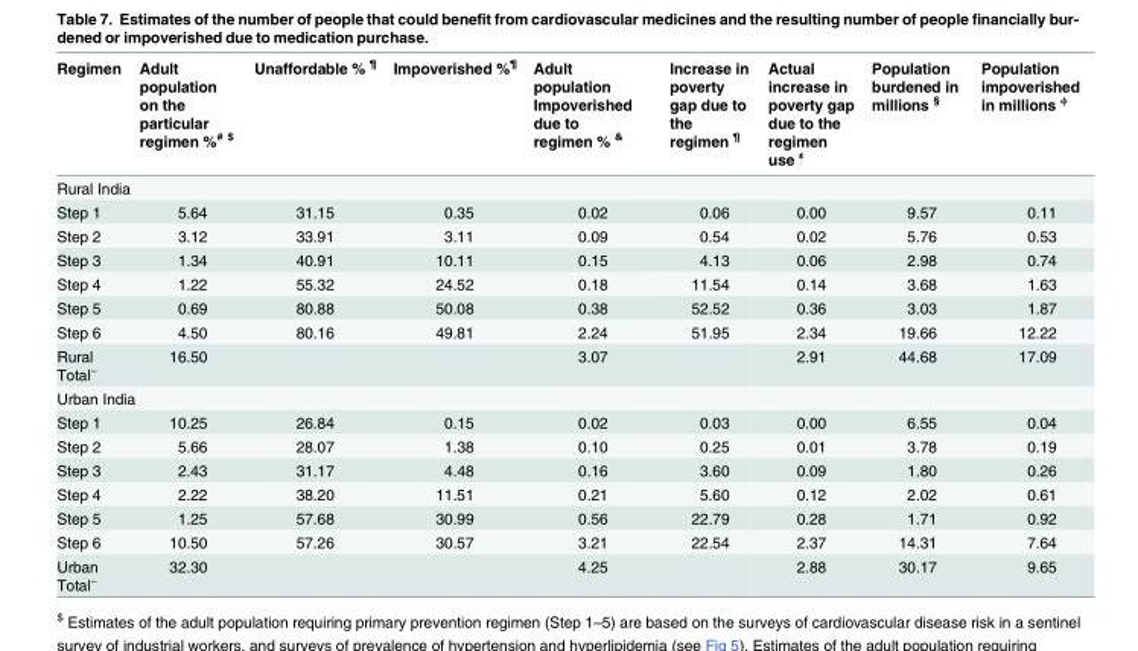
<table><thead><tr><td>Regimen</td><td>Adult population on the particular regimen %<sup># $</sup></td><td>Unaffordable % <sup>¶</sup></td><td>Impoverished %<sup>¶</sup></td><td>Adult population Impoverished due to regimen % <sup>&amp;</sup></td><td>Increase in poverty gap due to the regimen <sup>¶</sup></td><td>Actual increase in poverty gap due to the regimen use <sup>ε</sup></td><td>Population burdened in millions <sup>§</sup></td><td>Population impoverished in millions <sup>ϕ</sup></td></tr></thead><tbody><tr><td colspan="9">Rural India</td></tr><tr><td>Step 1</td><td>5.64</td><td>31.15</td><td>0.35</td><td>0.02</td><td>0.06</td><td>0.00</td><td>9.57</td><td>0.11</td></tr><tr><td>Step 2</td><td>3.12</td><td>33.91</td><td>3.11</td><td>0.09</td><td>0.54</td><td>0.02</td><td>5.76</td><td>0.53</td></tr><tr><td>Step 3</td><td>1.34</td><td>40.91</td><td>10.11</td><td>0.15</td><td>4.13</td><td>0.06</td><td>2.98</td><td>0.74</td></tr><tr><td>Step 4</td><td>1.22</td><td>55.32</td><td>24.52</td><td>0.18</td><td>11.54</td><td>0.14</td><td>3.68</td><td>1.63</td></tr><tr><td>Step 5</td><td>0.69</td><td>80.88</td><td>50.08</td><td>0.38</td><td>52.52</td><td>0.36</td><td>3.03</td><td>1.87</td></tr><tr><td>Step 6</td><td>4.50</td><td>80.16</td><td>49.81</td><td>2.24</td><td>51.95</td><td>2.34</td><td>19.66</td><td>12.22</td></tr><tr><td>Rural Total<sup>~</sup></td><td>16.50</td><td></td><td></td><td>3.07</td><td></td><td>2.91</td><td>44.68</td><td>17.09</td></tr><tr><td colspan="9">Urban India</td></tr><tr><td>Step 1</td><td>10.25</td><td>26.84</td><td>0.15</td><td>0.02</td><td>0.03</td><td>0.00</td><td>6.55</td><td>0.04</td></tr><tr><td>Step 2</td><td>5.66</td><td>28.07</td><td>1.38</td><td>0.10</td><td>0.25</td><td>0.01</td><td>3.78</td><td>0.19</td></tr><tr><td>Step 3</td><td>2.43</td><td>31.17</td><td>4.48</td><td>0.16</td><td>3.60</td><td>0.09</td><td>1.80</td><td>0.26</td></tr><tr><td>Step 4</td><td>2.22</td><td>38.20</td><td>11.51</td><td>0.21</td><td>5.60</td><td>0.12</td><td>2.02</td><td>0.61</td></tr><tr><td>Step 5</td><td>1.25</td><td>57.68</td><td>30.99</td><td>0.56</td><td>22.79</td><td>0.28</td><td>1.71</td><td>0.92</td></tr><tr><td>Step 6</td><td>10.50</td><td>57.26</td><td>30.57</td><td>3.21</td><td>22.54</td><td>2.37</td><td>14.31</td><td>7.64</td></tr><tr><td>Urban Total<sup>~</sup></td><td>32.30</td><td></td><td></td><td>4.25</td><td></td><td>2.88</td><td>30.17</td><td>9.65</td></tr></tbody></table>